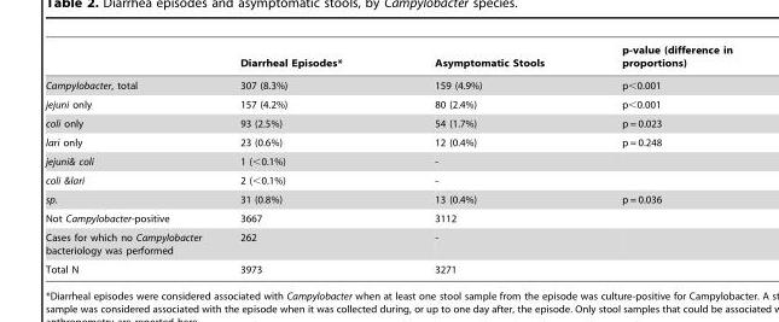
<table><thead><tr><td></td><td>Diarrheal Episodes*</td><td>Asymptomatic Stools</td><td>p-value (difference in proportions)</td></tr></thead><tbody><tr><td>Campylobacter, total</td><td>307 (8.3%)</td><td>159 (4.9%)</td><td>p&lt;0.001</td></tr><tr><td>jejuni only</td><td>157 (4.2%)</td><td>80 (2.4%)</td><td>p&lt;0.001</td></tr><tr><td>coli only</td><td>93 (2.5%)</td><td>54 (1.7%)</td><td>p = 0.023</td></tr><tr><td>lari only</td><td>23 (0.6%)</td><td>12 (0.4%)</td><td>p = 0.248</td></tr><tr><td>jejuni&amp; coli</td><td>1 (&lt;0.1%)</td><td>-</td><td></td></tr><tr><td>coli &amp;lari</td><td>2 (&lt;0.1%)</td><td>-</td><td></td></tr><tr><td>sp.</td><td>31 (0.8%)</td><td>13 (0.4%)</td><td>p = 0.036</td></tr><tr><td>Not Campylobacter-positive</td><td>3667</td><td>3112</td><td></td></tr><tr><td>Cases for which no Campylobacter bacteriology was performed</td><td>262</td><td>-</td><td></td></tr><tr><td>Total N</td><td>3973</td><td>3271</td><td></td></tr></tbody></table>